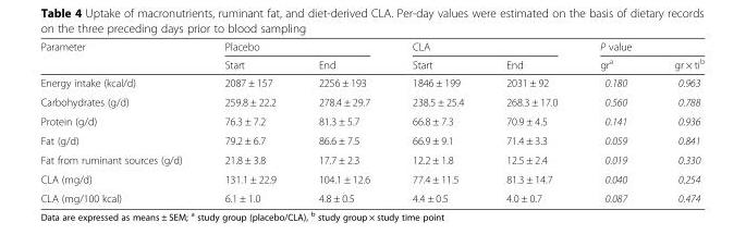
<table><thead><tr><td rowspan="2">Parameter</td><td rowspan="2">Placebo Start</td><td rowspan="2">End</td><td rowspan="2">CLA Start</td><td rowspan="2">End</td><td rowspan="2">P value gr<sup>a</sup></td><td rowspan="2">gr × ti<sup>b</sup></td></tr><tr></tr></thead><tbody><tr><td>Energy intake (kcal/d)</td><td>2087 ± 157</td><td>2256 ± 193</td><td>1846 ± 199</td><td>2031 ± 92</td><td>0.180</td><td>0.963</td></tr><tr><td>Carbohydrates (g/d)</td><td>259.8 ± 22.2</td><td>278.4 ± 29.7</td><td>238.5 ± 25.4</td><td>268.3 ± 17.0</td><td>0.560</td><td>0.788</td></tr><tr><td>Protein (g/d)</td><td>76.3 ± 7.2</td><td>81.3 ± 5.7</td><td>66.8 ± 7.3</td><td>70.9 ± 4.5</td><td>0.141</td><td>0.936</td></tr><tr><td>Fat (g/d)</td><td>79.2 ± 6.7</td><td>86.6 ± 7.5</td><td>66.9 ± 9.1</td><td>71.4 ± 3.3</td><td>0.059</td><td>0.841</td></tr><tr><td>Fat from ruminant sources (g/d)</td><td>21.8 ± 3.8</td><td>17.7 ± 2.3</td><td>12.2 ± 1.8</td><td>12.5 ± 2.4</td><td>0.019</td><td>0.330</td></tr><tr><td>CLA (mg/d)</td><td>131.1 ± 22.9</td><td>104.1 ± 12.6</td><td>77.4 ± 11.5</td><td>81.3 ± 14.7</td><td>0.040</td><td>0.254</td></tr><tr><td>CLA (mg/100 kcal)</td><td>6.1 ± 1.0</td><td>4.8 ± 0.5</td><td>4.4 ± 0.5</td><td>4.0 ± 0.7</td><td>0.087</td><td>0.474</td></tr></tbody></table>